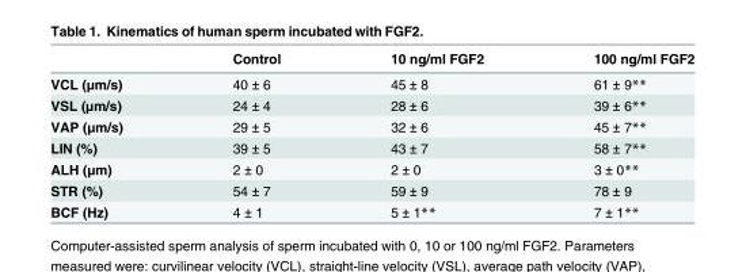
<table><thead><tr><td></td><td>Control</td><td>10 ng/ml FGF2</td><td>100 ng/ml FGF2</td></tr></thead><tbody><tr><td>VCL (μm/s)</td><td>40 ± 6</td><td>45 ± 8</td><td>61 ± 9**</td></tr><tr><td>VSL (μm/s)</td><td>24 ± 4</td><td>28 ± 6</td><td>39 ± 6**</td></tr><tr><td>VAP (μm/s)</td><td>29 ± 5</td><td>32 ± 6</td><td>45 ± 7**</td></tr><tr><td>LIN (%)</td><td>39 ± 5</td><td>43 ± 7</td><td>58 ± 7**</td></tr><tr><td>ALH (μm)</td><td>2 ± 0</td><td>2 ± 0</td><td>3 ± 0**</td></tr><tr><td>STR (%)</td><td>54 ± 7</td><td>59 ± 9</td><td>78 ± 9</td></tr><tr><td>BCF (Hz)</td><td>4 ± 1</td><td>5 ± 1**</td><td>7 ± 1**</td></tr></tbody></table>